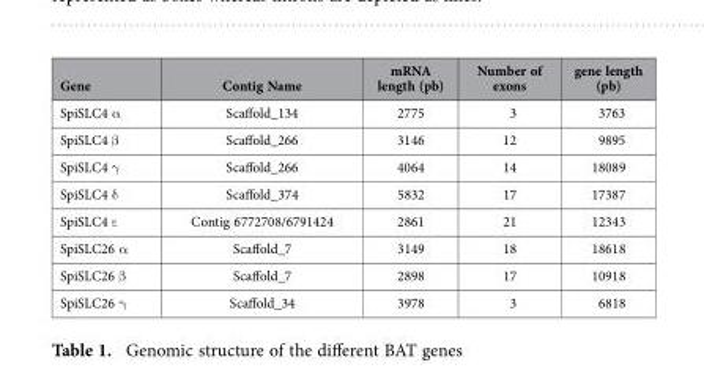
<table><thead><tr><td>Gene</td><td>Contig Name</td><td>mRNA length (pb)</td><td>Number of exons</td><td>gene length (pb)</td></tr></thead><tbody><tr><td>SpiSLC4 α</td><td>Scaffold_134</td><td>2775</td><td>3</td><td>3763</td></tr><tr><td>SpiSLC4 β</td><td>Scaffold_266</td><td>3146</td><td>12</td><td>9895</td></tr><tr><td>SpiSLC4 γ</td><td>Scaffold_266</td><td>4064</td><td>14</td><td>18089</td></tr><tr><td>SpiSLC4 δ</td><td>Scaffold_374</td><td>5832</td><td>17</td><td>17387</td></tr><tr><td>SpiSLC4 ε</td><td>Contig 6772708/6791424</td><td>2861</td><td>21</td><td>12343</td></tr><tr><td>SpiSLC26 α</td><td>Scaffold_7</td><td>3149</td><td>18</td><td>18618</td></tr><tr><td>SpiSLC26 β</td><td>Scaffold_7</td><td>2898</td><td>17</td><td>10918</td></tr><tr><td>SpiSLC26 γ</td><td>Scaffold_34</td><td>3978</td><td>3</td><td>6818</td></tr></tbody></table>